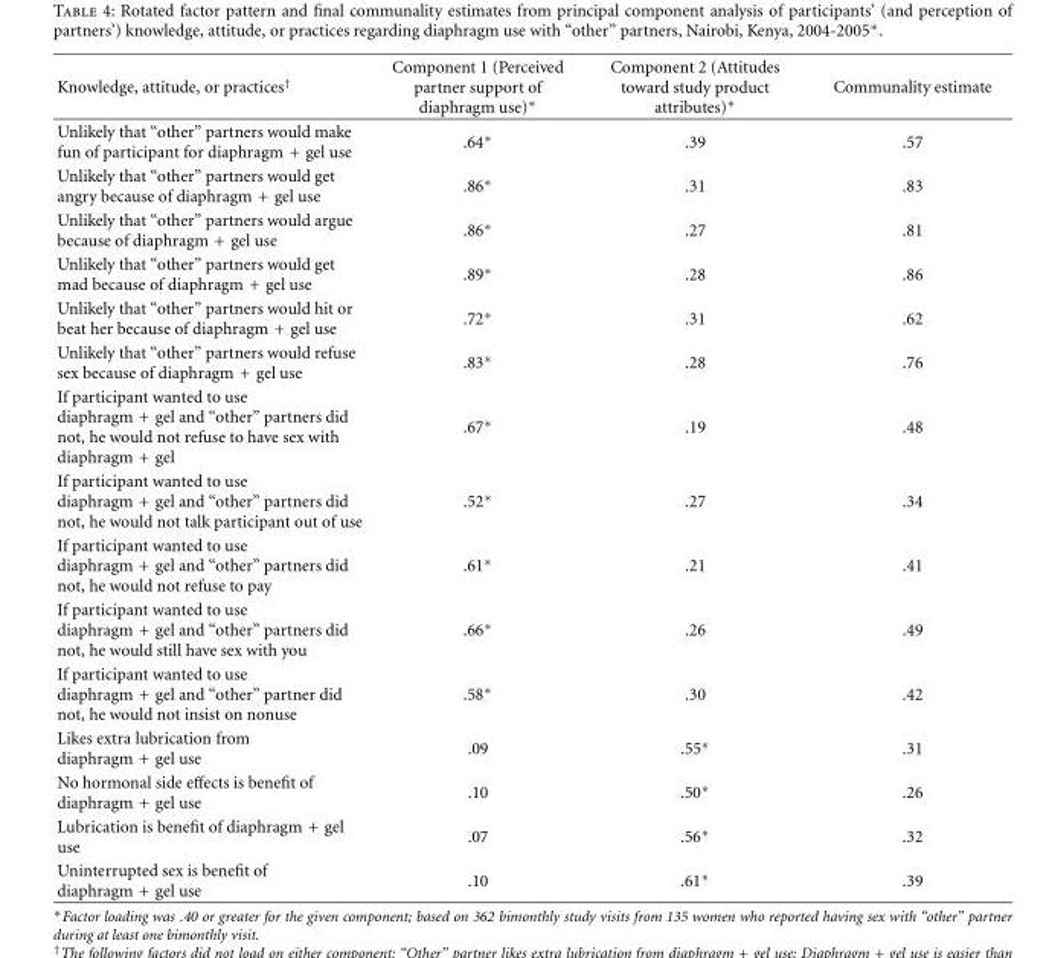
<table><thead><tr><td>Knowledge, attitude, or practices<sup>†</sup></td><td>Component 1 (Perceived partner support of diaphragm use)∗</td><td>Component 2 (Attitudes toward study product attributes)∗</td><td>Communality estimate</td></tr></thead><tbody><tr><td>Unlikely that “other” partners would make fun of participant for diaphragm + gel use</td><td>.64∗</td><td>.39</td><td>.57</td></tr><tr><td>Unlikely that “other” partners would get angry because of diaphragm + gel use</td><td>.86∗</td><td>.31</td><td>.83</td></tr><tr><td>Unlikely that “other” partners would argue because of diaphragm + gel use</td><td>.86∗</td><td>.27</td><td>.81</td></tr><tr><td>Unlikely that “other” partners would get mad because of diaphragm + gel use</td><td>.89∗</td><td>.28</td><td>.86</td></tr><tr><td>Unlikely that “other” partners would hit or beat her because of diaphragm + gel use</td><td>.72∗</td><td>.31</td><td>.62</td></tr><tr><td>Unlikely that “other” partners would refuse sex because of diaphragm + gel use</td><td>.83∗</td><td>.28</td><td>.76</td></tr><tr><td>If participant wanted to use diaphragm + gel and “other” partners did not, he would not refuse to have sex with diaphragm + gel</td><td>.67∗</td><td>.19</td><td>.48</td></tr><tr><td>If participant wanted to use diaphragm + gel and “other” partners did not, he would not talk participant out of use</td><td>.52∗</td><td>.27</td><td>.34</td></tr><tr><td>If participant wanted to use diaphragm + gel and “other” partners did not, he would not refuse to pay</td><td>.61∗</td><td>.21</td><td>.41</td></tr><tr><td>If participant wanted to use diaphragm + gel and “other” partners did not, he would still have sex with you</td><td>.66∗</td><td>.26</td><td>.49</td></tr><tr><td>If participant wanted to use diaphragm + gel and “other” partner did not, he would not insist on nonuse</td><td>.58∗</td><td>.30</td><td>.42</td></tr><tr><td>Likes extra lubrication from diaphragm + gel use</td><td>.09</td><td>.55∗</td><td>.31</td></tr><tr><td>No hormonal side effects is benefit of diaphragm + gel use</td><td>.10</td><td>.50∗</td><td>.26</td></tr><tr><td>Lubrication is benefit of diaphragm + gel use</td><td>.07</td><td>.56∗</td><td>.32</td></tr><tr><td>Uninterrupted sex is benefit of diaphragm + gel use</td><td>.10</td><td>.61∗</td><td>.39</td></tr></tbody></table>